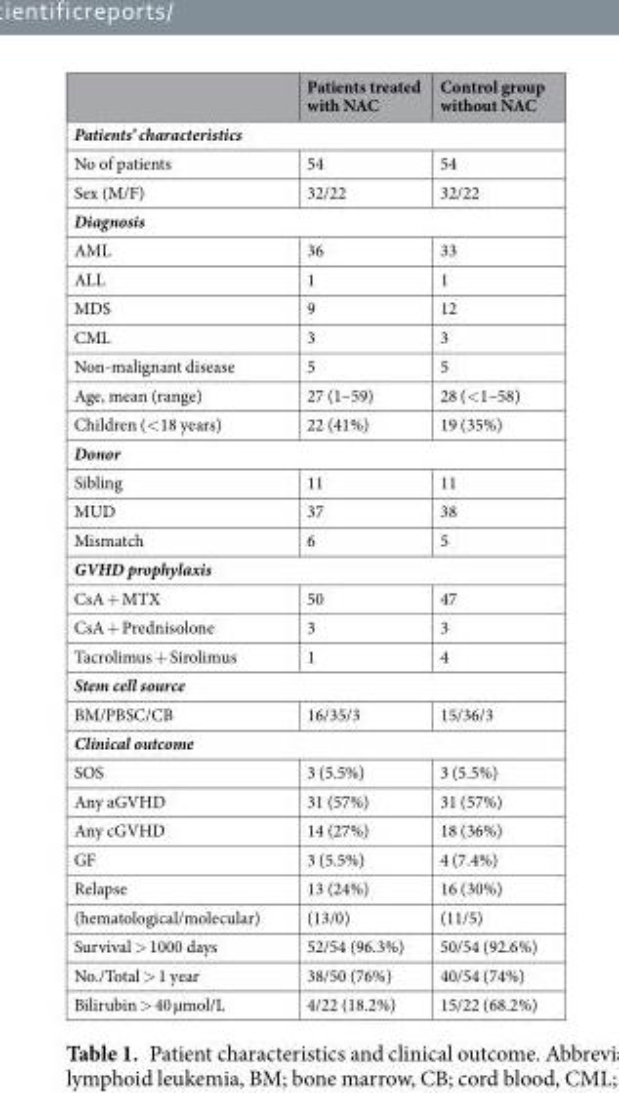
<table><thead><tr><td></td><td>Patients treated with NAC</td><td>Control group without NAC</td></tr></thead><tbody><tr><td colspan="3">Patients’ characteristics</td></tr><tr><td>No of patients</td><td>54</td><td>54</td></tr><tr><td>Sex (M/F)</td><td>32/22</td><td>32/22</td></tr><tr><td colspan="3">Diagnosis</td></tr><tr><td>AML</td><td>36</td><td>33</td></tr><tr><td>ALL</td><td>1</td><td>1</td></tr><tr><td>MDS</td><td>9</td><td>12</td></tr><tr><td>CML</td><td>3</td><td>3</td></tr><tr><td>Non-malignant disease</td><td>5</td><td>5</td></tr><tr><td>Age, mean (range)</td><td>27 (1–59)</td><td>28 (&lt;1–58)</td></tr><tr><td>Children (&lt;18 years)</td><td>22 (41%)</td><td>19 (35%)</td></tr><tr><td colspan="3">Donor</td></tr><tr><td>Sibling</td><td>11</td><td>11</td></tr><tr><td>MUD</td><td>37</td><td>38</td></tr><tr><td>Mismatch</td><td>6</td><td>5</td></tr><tr><td colspan="3">GVHD prophylaxis</td></tr><tr><td>CsA + MTX</td><td>50</td><td>47</td></tr><tr><td>CsA + Prednisolone</td><td>3</td><td>3</td></tr><tr><td>Tacrolimus + Sirolimus</td><td>1</td><td>4</td></tr><tr><td colspan="3">Stem cell source</td></tr><tr><td>BM/PBSC/CB</td><td>16/35/3</td><td>15/36/3</td></tr><tr><td colspan="3">Clinical outcome</td></tr><tr><td>SOS</td><td>3 (5.5%)</td><td>3 (5.5%)</td></tr><tr><td>Any aGVHD</td><td>31 (57%)</td><td>31 (57%)</td></tr><tr><td>Any cGVHD</td><td>14 (27%)</td><td>18 (36%)</td></tr><tr><td>GF</td><td>3 (5.5%)</td><td>4 (7.4%)</td></tr><tr><td>Relapse</td><td>13 (24%)</td><td>16 (30%)</td></tr><tr><td>(hematological/molecular)</td><td>(13/0)</td><td>(11/5)</td></tr><tr><td>Survival &gt; 1000 days</td><td>52/54 (96.3%)</td><td>50/54 (92.6%)</td></tr><tr><td>No./Total &gt; 1 year</td><td>38/50 (76%)</td><td>40/54 (74%)</td></tr><tr><td>Bilirubin &gt; 40 µmol/L</td><td>4/22 (18.2%)</td><td>15/22 (68.2%)</td></tr></tbody></table>